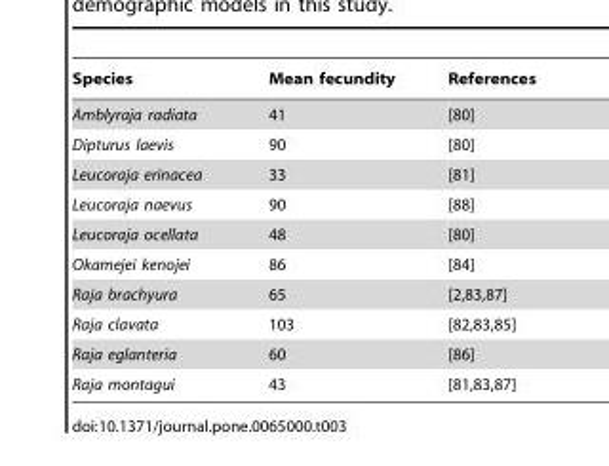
<table><thead><tr><td>Species</td><td>Mean fecundity</td><td>References</td></tr></thead><tbody><tr><td>Amblyraja radiata</td><td>41</td><td>[80]</td></tr><tr><td>Dipturus laevis</td><td>90</td><td>[80]</td></tr><tr><td>Leucoraja erinacea</td><td>33</td><td>[81]</td></tr><tr><td>Leucoraja naevus</td><td>90</td><td>[88]</td></tr><tr><td>Leucoraja ocellata</td><td>48</td><td>[80]</td></tr><tr><td>Okamejei kenojei</td><td>86</td><td>[84]</td></tr><tr><td>Raja brachyura</td><td>65</td><td>[2,83,87]</td></tr><tr><td>Raja clavata</td><td>103</td><td>[82,83,85]</td></tr><tr><td>Raja eglanteria</td><td>60</td><td>[86]</td></tr><tr><td>Raja montagui</td><td>43</td><td>[81,83,87]</td></tr></tbody></table>